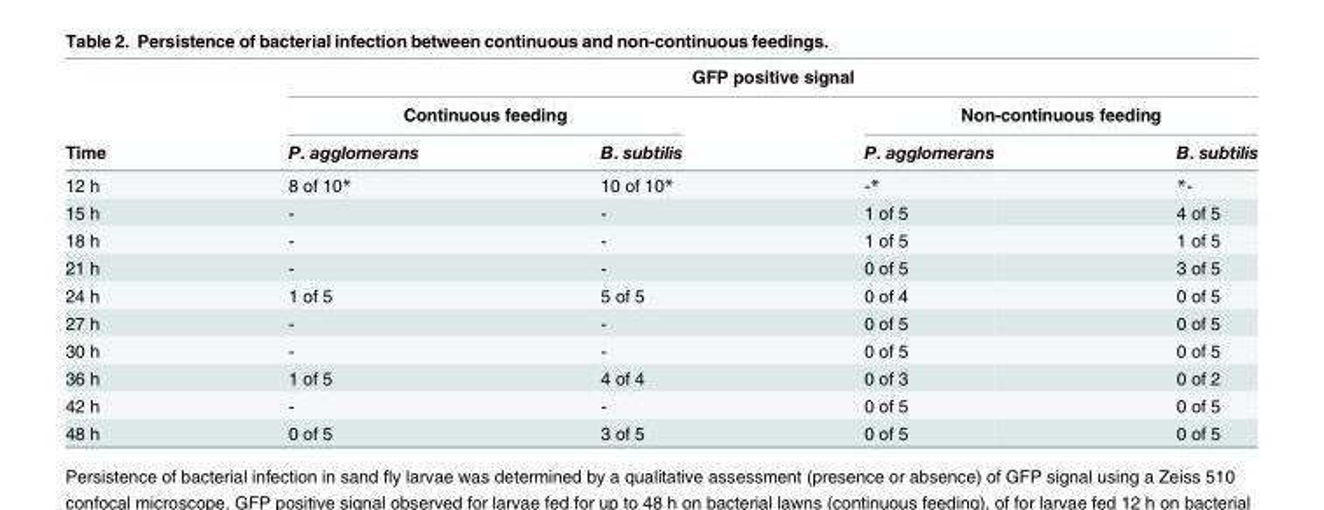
<table><thead><tr><td rowspan="3">Time</td><td colspan="4">GFP positive signal</td></tr><tr><td colspan="2">Continuous feeding</td><td colspan="2">Non-continuous feeding</td></tr><tr><td>P. agglomerans</td><td>B. subtilis</td><td>P. agglomerans</td><td>B. subtilis</td></tr></thead><tbody><tr><td>12 h</td><td>8 of 10*</td><td>10 of 10*</td><td>-*</td><td>*-</td></tr><tr><td>15 h</td><td>-</td><td>-</td><td>1 of 5</td><td>4 of 5</td></tr><tr><td>18 h</td><td>-</td><td>-</td><td>1 of 5</td><td>1 of 5</td></tr><tr><td>21 h</td><td>-</td><td>-</td><td>0 of 5</td><td>3 of 5</td></tr><tr><td>24 h</td><td>1 of 5</td><td>5 of 5</td><td>0 of 4</td><td>0 of 5</td></tr><tr><td>27 h</td><td>-</td><td>-</td><td>0 of 5</td><td>0 of 5</td></tr><tr><td>30 h</td><td>-</td><td>-</td><td>0 of 5</td><td>0 of 5</td></tr><tr><td>36 h</td><td>1 of 5</td><td>4 of 4</td><td>0 of 3</td><td>0 of 2</td></tr><tr><td>42 h</td><td>-</td><td>-</td><td>0 of 5</td><td>0 of 5</td></tr><tr><td>48 h</td><td>0 of 5</td><td>3 of 5</td><td>0 of 5</td><td>0 of 5</td></tr></tbody></table>